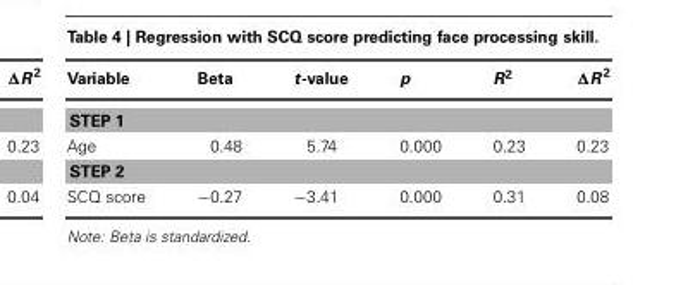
<table><thead><tr><td>Variable</td><td>Beta</td><td>t-value</td><td>p</td><td>R<sup>2</sup></td><td>ΔR <sup>2</sup></td></tr></thead><tbody><tr><td colspan="6">STEP 1</td></tr><tr><td>Age</td><td>0.48</td><td>5.74</td><td>0.000</td><td>0.23</td><td>0.23</td></tr><tr><td colspan="6">STEP 2</td></tr><tr><td>SCQ score</td><td>−0.27</td><td>−3.41</td><td>0.000</td><td>0.31</td><td>0.08</td></tr></tbody></table>